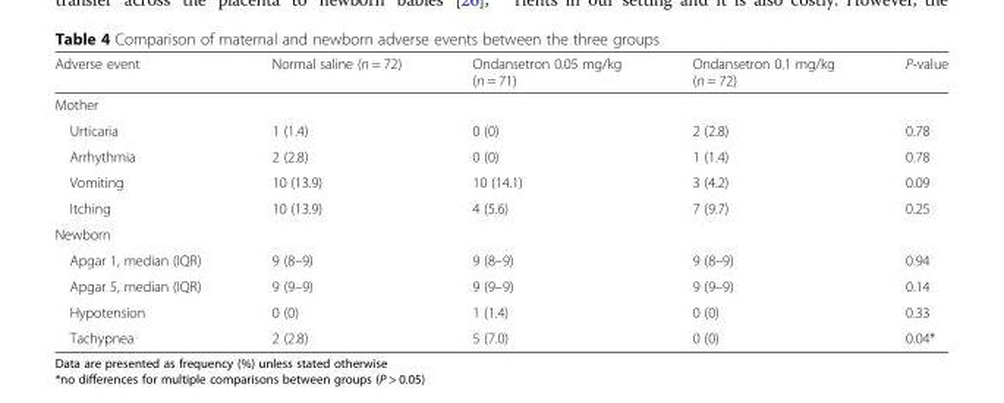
<table><thead><tr><td>Adverse event</td><td>Normal saline (n = 72)</td><td>Ondansetron 0.05 mg/kg (n = 71)</td><td>Ondansetron 0.1 mg/kg (n = 72)</td><td>P-value</td></tr></thead><tbody><tr><td colspan="5">Mother</td></tr><tr><td>Urticaria</td><td>1 (1.4)</td><td>0 (0)</td><td>2 (2.8)</td><td>0.78</td></tr><tr><td>Arrhythmia</td><td>2 (2.8)</td><td>0 (0)</td><td>1 (1.4)</td><td>0.78</td></tr><tr><td>Vomiting</td><td>10 (13.9)</td><td>10 (14.1)</td><td>3 (4.2)</td><td>0.09</td></tr><tr><td>Itching</td><td>10 (13.9)</td><td>4 (5.6)</td><td>7 (9.7)</td><td>0.25</td></tr><tr><td colspan="5">Newborn</td></tr><tr><td>Apgar 1, median (IQR)</td><td>9 (8–9)</td><td>9 (8–9)</td><td>9 (8–9)</td><td>0.94</td></tr><tr><td>Apgar 5, median (IQR)</td><td>9 (9–9)</td><td>9 (9–9)</td><td>9 (9–9)</td><td>0.14</td></tr><tr><td>Hypotension</td><td>0 (0)</td><td>1 (1.4)</td><td>0 (0)</td><td>0.33</td></tr><tr><td>Tachypnea</td><td>2 (2.8)</td><td>5 (7.0)</td><td>0 (0)</td><td>0.04*</td></tr></tbody></table>